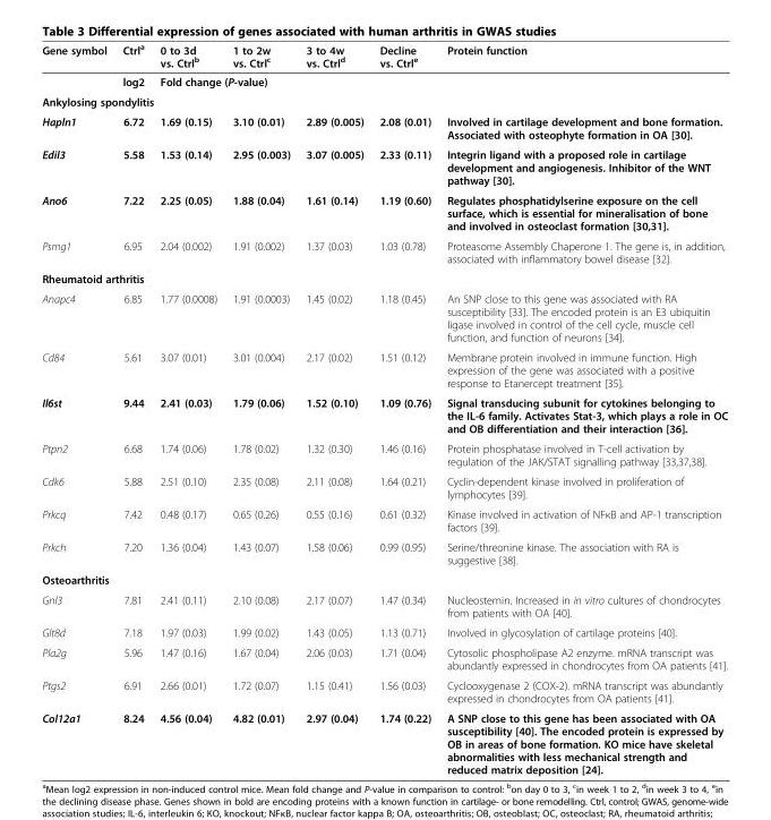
<table><thead><tr><td>Gene symbol</td><td>Ctrl<sup>a</sup></td><td>0 to 3d vs. Ctrl<sup>b</sup></td><td>1 to 2w vs. Ctrl<sup>c</sup></td><td>3 to 4w vs. Ctrl<sup>d</sup></td><td>Decline vs. Ctrl<sup>e</sup></td><td>Protein function</td></tr></thead><tbody><tr><td></td><td>log2</td><td colspan="4">Fold change (P-value)</td><td></td></tr><tr><td colspan="7">Ankylosing spondylitis</td></tr><tr><td>Hapln1</td><td>6.72</td><td>1.69 (0.15)</td><td>3.10 (0.01)</td><td>2.89 (0.005)</td><td>2.08 (0.01)</td><td>Involved in cartilage development and bone formation. Associated with osteophyte formation in OA [30].</td></tr><tr><td>Edil3</td><td>5.58</td><td>1.53 (0.14)</td><td>2.95 (0.003)</td><td>3.07 (0.005)</td><td>2.33 (0.11)</td><td>Integrin ligand with a proposed role in cartilage development and angiogenesis. Inhibitor of the WNT pathway [30].</td></tr><tr><td>Ano6</td><td>7.22</td><td>2.25 (0.05)</td><td>1.88 (0.04)</td><td>1.61 (0.14)</td><td>1.19 (0.60)</td><td>Regulates phosphatidylserine exposure on the cell surface, which is essential for mineralisation of bone and involved in osteoclast formation [30,31].</td></tr><tr><td>Psmg1</td><td>6.95</td><td>2.04 (0.002)</td><td>1.91 (0.002)</td><td>1.37 (0.03)</td><td>1.03 (0.78)</td><td>Proteasome Assembly Chaperone 1. The gene is, in addition, associated with inflammatory bowel disease [32].</td></tr><tr><td colspan="7">Rheumatoid arthritis</td></tr><tr><td>Anapc4</td><td>6.85</td><td>1.77 (0.0008)</td><td>1.91 (0.0003)</td><td>1.45 (0.02)</td><td>1.18 (0.45)</td><td>An SNP close to this gene was associated with RA susceptibility [33]. The encoded protein is an E3 ubiquitin ligase involved in control of the cell cycle, muscle cell function, and function of neurons [34].</td></tr><tr><td>Cd84</td><td>5.61</td><td>3.07 (0.01)</td><td>3.01 (0.004)</td><td>2.17 (0.02)</td><td>1.51 (0.12)</td><td>Membrane protein involved in immune function. High expression of the gene was associated with a positive response to Etanercept treatment [35].</td></tr><tr><td>Il6st</td><td>9.44</td><td>2.41 (0.03)</td><td>1.79 (0.06)</td><td>1.52 (0.10)</td><td>1.09 (0.76)</td><td>Signal transducing subunit for cytokines belonging to the IL-6 family. Activates Stat-3, which plays a role in OC and OB differentiation and their interaction [36].</td></tr><tr><td>Ptpn2</td><td>6.68</td><td>1.74 (0.06)</td><td>1.78 (0.02)</td><td>1.32 (0.30)</td><td>1.46 (0.16)</td><td>Protein phosphatase involved in T-cell activation by regulation of the JAK/STAT signalling pathway [33,37,38].</td></tr><tr><td>Cdk6</td><td>5.88</td><td>2.51 (0.10)</td><td>2.35 (0.08)</td><td>2.11 (0.08)</td><td>1.64 (0.21)</td><td>Cyclin-dependent kinase involved in proliferation of lymphocytes [39].</td></tr><tr><td>Prkcq</td><td>7.42</td><td>0.48 (0.17)</td><td>0.65 (0.26)</td><td>0.55 (0.16)</td><td>0.61 (0.32)</td><td>Kinase involved in activation of NFκB and AP-1 transcription factors [39].</td></tr><tr><td>Prkch</td><td>7.20</td><td>1.36 (0.04)</td><td>1.43 (0.07)</td><td>1.58 (0.06)</td><td>0.99 (0.95)</td><td>Serine/threonine kinase. The association with RA is suggestive [38].</td></tr><tr><td colspan="7">Osteoarthritis</td></tr><tr><td>Gnl3</td><td>7.81</td><td>2.41 (0.11)</td><td>2.10 (0.08)</td><td>2.17 (0.07)</td><td>1.47 (0.34)</td><td>Nucleostemin. Increased in in vitro cultures of chondrocytes from patients with OA [40].</td></tr><tr><td>Glt8d</td><td>7.18</td><td>1.97 (0.03)</td><td>1.99 (0.02)</td><td>1.43 (0.05)</td><td>1.13 (0.71)</td><td>Involved in glycosylation of cartilage proteins [40].</td></tr><tr><td>Pla2g</td><td>5.96</td><td>1.47 (0.16)</td><td>1.67 (0.04)</td><td>2.06 (0.03)</td><td>1.71 (0.04)</td><td>Cytosolic phospholipase A2 enzyme. mRNA transcript was abundantly expressed in chondrocytes from OA patients [41].</td></tr><tr><td>Ptgs2</td><td>6.91</td><td>2.66 (0.01)</td><td>1.72 (0.07)</td><td>1.15 (0.41)</td><td>1.56 (0.03)</td><td>Cyclooxygenase 2 (COX-2). mRNA transcript was abundantly expressed in chondrocytes from OA patients [41].</td></tr><tr><td>Col12a1</td><td>8.24</td><td>4.56 (0.04)</td><td>4.82 (0.01)</td><td>2.97 (0.04)</td><td>1.74 (0.22)</td><td>A SNP close to this gene has been associated with OA susceptibility [40]. The encoded protein is expressed by OB in areas of bone formation. KO mice have skeletal abnormalities with less mechanical strength and reduced matrix deposition [24].</td></tr></tbody></table>